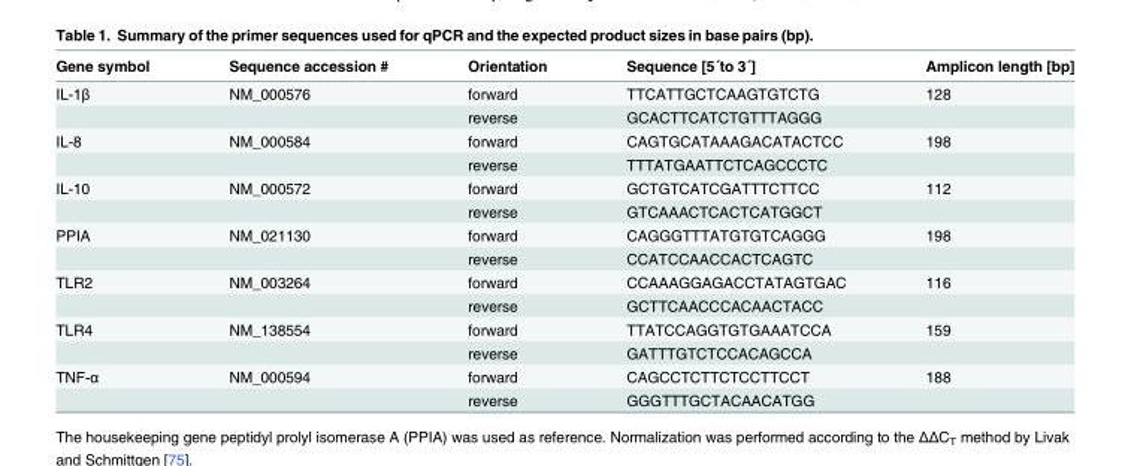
<table><thead><tr><td>Gene symbol</td><td>Sequence accession #</td><td>Orientation</td><td>Sequence [5´to 3´]</td><td>Amplicon length [bp]</td></tr></thead><tbody><tr><td rowspan="2">IL-1β</td><td>NM_000576</td><td>forward</td><td>TTCATTGCTCAAGTGTCTG</td><td>128</td></tr><tr><td></td><td>reverse</td><td>GCACTTCATCTGTTTAGGG</td><td></td></tr><tr><td rowspan="2">IL-8</td><td>NM_000584</td><td>forward</td><td>CAGTGCATAAAGACATACTCC</td><td>198</td></tr><tr><td></td><td>reverse</td><td>TTTATGAATTCTCAGCCCTC</td><td></td></tr><tr><td rowspan="2">IL-10</td><td>NM_000572</td><td>forward</td><td>GCTGTCATCGATTTCTTCC</td><td>112</td></tr><tr><td></td><td>reverse</td><td>GTCAAACTCACTCATGGCT</td><td></td></tr><tr><td rowspan="2">PPIA</td><td>NM_021130</td><td>forward</td><td>CAGGGTTTATGTGTCAGGG</td><td>198</td></tr><tr><td></td><td>reverse</td><td>CCATCCAACCACTCAGTC</td><td></td></tr><tr><td rowspan="2">TLR2</td><td>NM_003264</td><td>forward</td><td>CCAAAGGAGACCTATAGTGAC</td><td>116</td></tr><tr><td></td><td>reverse</td><td>GCTTCAACCCACAACTACC</td><td></td></tr><tr><td rowspan="2">TLR4</td><td>NM_138554</td><td>forward</td><td>TTATCCAGGTGTGAAATCCA</td><td>159</td></tr><tr><td></td><td>reverse</td><td>GATTTGTCTCCACAGCCA</td><td></td></tr><tr><td rowspan="2">TNF-α</td><td>NM_000594</td><td>forward</td><td>CAGCCTCTTCTCCTTCCT</td><td>188</td></tr><tr><td></td><td>reverse</td><td>GGGTTTGCTACAACATGG</td><td></td></tr></tbody></table>